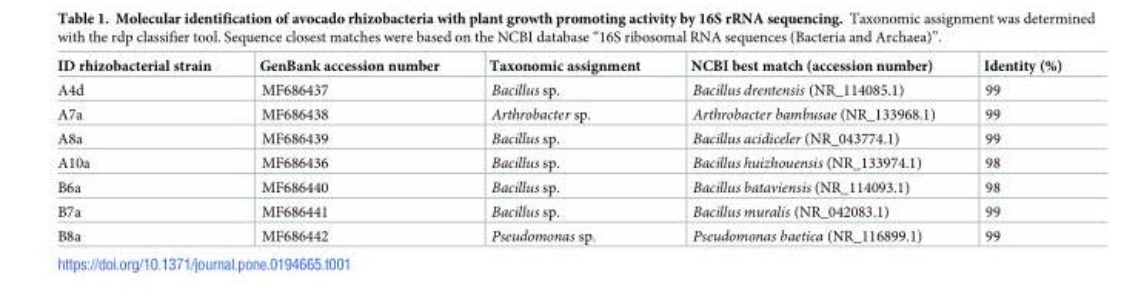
<table><thead><tr><td>ID rhizobacterial strain</td><td>GenBank accession number</td><td>Taxonomic assignment</td><td>NCBI best match (accession number)</td><td>Identity (%)</td></tr></thead><tbody><tr><td>A4d</td><td>MF686437</td><td>Bacillus sp.</td><td>Bacillus drentensis (NR_114085.1)</td><td>99</td></tr><tr><td>A7a</td><td>MF686438</td><td>Arthrobacter sp.</td><td>Arthrobacter bambusae (NR_133968.1)</td><td>99</td></tr><tr><td>A8a</td><td>MF686439</td><td>Bacillus sp.</td><td>Bacillus acidiceler (NR_043774.1)</td><td>99</td></tr><tr><td>A10a</td><td>MF686436</td><td>Bacillus sp.</td><td>Bacillus huizhouensis (NR_133974.1)</td><td>98</td></tr><tr><td>B6a</td><td>MF686440</td><td>Bacillus sp.</td><td>Bacillus bataviensis (NR_114093.1)</td><td>98</td></tr><tr><td>B7a</td><td>MF686441</td><td>Bacillus sp.</td><td>Bacillus muralis (NR_042083.1)</td><td>99</td></tr><tr><td>B8a</td><td>MF686442</td><td>Pseudomonas sp.</td><td>Pseudomonas baetica (NR_116899.1)</td><td>99</td></tr></tbody></table>